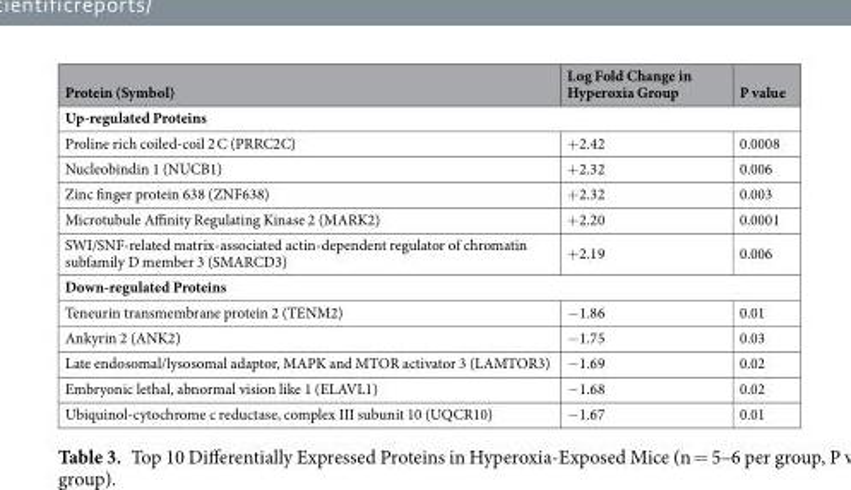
<table><thead><tr><td>Protein (Symbol)</td><td>Log Fold Change in Hyperoxia Group</td><td>P value</td></tr></thead><tbody><tr><td colspan="3">Up-regulated Proteins</td></tr><tr><td>Proline rich coiled-coil 2 C (PRRC2C)</td><td>+2.42</td><td>0.0008</td></tr><tr><td>Nucleobindin 1 (NUCB1)</td><td>+2.32</td><td>0.006</td></tr><tr><td>Zinc finger protein 638 (ZNF638)</td><td>+2.32</td><td>0.003</td></tr><tr><td>Microtubule Affinity Regulating Kinase 2 (MARK2)</td><td>+2.20</td><td>0.0001</td></tr><tr><td>SWI/SNF-related matrix-associated actin-dependent regulator of chromatin subfamily D member 3 (SMARCD3)</td><td>+2.19</td><td>0.006</td></tr><tr><td colspan="3">Down-regulated Proteins</td></tr><tr><td>Teneurin transmembrane protein 2 (TENM2)</td><td>−1.86</td><td>0.01</td></tr><tr><td>Ankyrin 2 (ANK2)</td><td>−1.75</td><td>0.03</td></tr><tr><td>Late endosomal/lysosomal adaptor, MAPK and MTOR activator 3 (LAMTOR3)</td><td>−1.69</td><td>0.02</td></tr><tr><td>Embryonic lethal, abnormal vision like 1 (ELAVL1)</td><td>−1.68</td><td>0.02</td></tr><tr><td>Ubiquinol-cytochrome c reductase, complex III subunit 10 (UQCR10)</td><td>−1.67</td><td>0.01</td></tr></tbody></table>